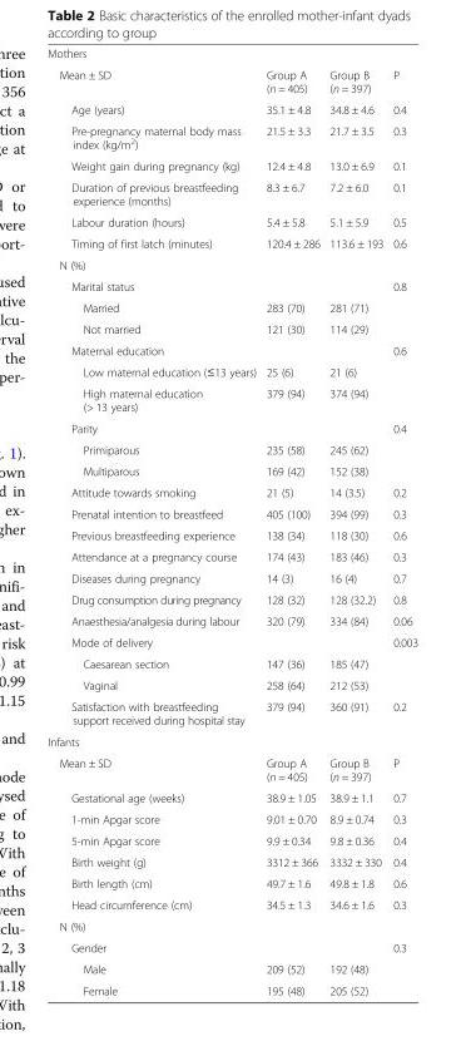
<table><tbody><tr><td colspan="4">Mothers</td></tr><tr><td>Mean ± SD</td><td>Group A (n = 405)</td><td>Group B (n = 397)</td><td>P</td></tr><tr><td>Age (years)</td><td>35.1 ± 4.8</td><td>34.8 ± 4.6</td><td>0.4</td></tr><tr><td>Pre-pregnancy maternal body mass index (kg/m<sup>2</sup>)</td><td>21.5 ± 3.3</td><td>21.7 ± 3.5</td><td>0.3</td></tr><tr><td>Weight gain during pregnancy (kg)</td><td>12.4 ± 4.8</td><td>13.0 ± 6.9</td><td>0.1</td></tr><tr><td>Duration of previous breastfeeding experience (months)</td><td>8.3 ± 6.7</td><td>7.2 ± 6.0</td><td>0.1</td></tr><tr><td>Labour duration (hours)</td><td>5.4 ± 5.8</td><td>5.1 ± 5.9</td><td>0.5</td></tr><tr><td>Timing of first latch (minutes)</td><td>120.4 ± 286</td><td>113.6 ± 193</td><td>0.6</td></tr><tr><td colspan="4">N (%)</td></tr><tr><td colspan="3">Marital status</td><td>0.8</td></tr><tr><td>Married</td><td>283 (70)</td><td>281 (71)</td><td></td></tr><tr><td>Not married</td><td>121 (30)</td><td>114 (29)</td><td></td></tr><tr><td>Maternal education</td><td></td><td></td><td>0.6</td></tr><tr><td>Low maternal education (≤13 years)</td><td>25 (6)</td><td>21 (6)</td><td></td></tr><tr><td>High maternal education (&gt; 13 years)</td><td>379 (94)</td><td>374 (94)</td><td></td></tr><tr><td>Parity</td><td></td><td></td><td>0.4</td></tr><tr><td>Primiparous</td><td>235 (58)</td><td>245 (62)</td><td></td></tr><tr><td>Multiparous</td><td>169 (42)</td><td>152 (38)</td><td></td></tr><tr><td>Attitude towards smoking</td><td>21 (5)</td><td>14 (3.5)</td><td>0.2</td></tr><tr><td>Prenatal intention to breastfeed</td><td>405 (100)</td><td>394 (99)</td><td>0.3</td></tr><tr><td>Previous breastfeeding experience</td><td>138 (34)</td><td>118 (30)</td><td>0.6</td></tr><tr><td>Attendance at a pregnancy course</td><td>174 (43)</td><td>183 (46)</td><td>0.3</td></tr><tr><td>Diseases during pregnancy</td><td>14 (3)</td><td>16 (4)</td><td>0.7</td></tr><tr><td>Drug consumption during pregnancy</td><td>128 (32)</td><td>128 (32.2)</td><td>0.8</td></tr><tr><td>Anaesthesia/analgesia during labour</td><td>320 (79)</td><td>334 (84)</td><td>0.06</td></tr><tr><td>Mode of delivery</td><td></td><td></td><td>0.003</td></tr><tr><td>Caesarean section</td><td>147 (36)</td><td>185 (47)</td><td></td></tr><tr><td>Vaginal</td><td>258 (64)</td><td>212 (53)</td><td></td></tr><tr><td>Satisfaction with breastfeeding support received during hospital stay</td><td>379 (94)</td><td>360 (91)</td><td>0.2</td></tr><tr><td colspan="4">Infants</td></tr><tr><td>Mean ± SD</td><td>Group A (n = 405)</td><td>Group B (n = 397)</td><td>P</td></tr><tr><td>Gestational age (weeks)</td><td>38.9 ± 1.05</td><td>38.9 ± 1.1</td><td>0.7</td></tr><tr><td>1-min Apgar score</td><td>9.01 ± 0.70</td><td>8.9 ± 0.74</td><td>0.3</td></tr><tr><td>5-min Apgar score</td><td>9.9 ± 0.34</td><td>9.8 ± 0.36</td><td>0.4</td></tr><tr><td>Birth weight (g)</td><td>3312 ± 366</td><td>3332 ± 330</td><td>0.4</td></tr><tr><td>Birth length (cm)</td><td>49.7 ± 1.6</td><td>49.8 ± 1.8</td><td>0.6</td></tr><tr><td>Head circumference (cm)</td><td>34.5 ± 1.3</td><td>34.6 ± 1.6</td><td>0.3</td></tr><tr><td colspan="4">N (%)</td></tr><tr><td>Gender</td><td></td><td></td><td>0.3</td></tr><tr><td>Male</td><td>209 (52)</td><td>192 (48)</td><td></td></tr><tr><td>Female</td><td>195 (48)</td><td>205 (52)</td><td></td></tr></tbody></table>